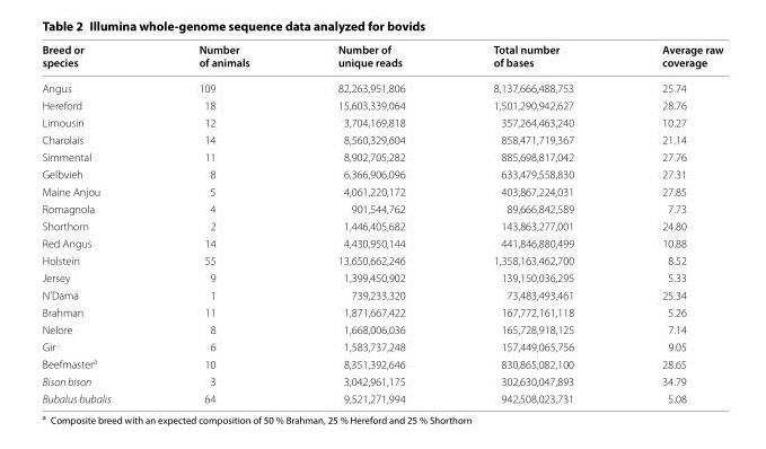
<table><thead><tr><td>Breed or species</td><td>Number of animals</td><td>Number of unique reads</td><td>Total number of bases</td><td>Average raw coverage</td></tr></thead><tbody><tr><td>Angus</td><td>109</td><td>82,263,951,806</td><td>8,137,666,488,753</td><td>25.74</td></tr><tr><td>Hereford</td><td>18</td><td>15,603,339,064</td><td>1,501,290,942,627</td><td>28.76</td></tr><tr><td>Limousin</td><td>12</td><td>3,704,169,818</td><td>357,264,463,240</td><td>10.27</td></tr><tr><td>Charolais</td><td>14</td><td>8,560,329,604</td><td>858,471,719,367</td><td>21.14</td></tr><tr><td>Simmental</td><td>11</td><td>8,902,705,282</td><td>885,698,817,042</td><td>27.76</td></tr><tr><td>Gelbvieh</td><td>8</td><td>6,366,906,096</td><td>633,479,558,830</td><td>27.31</td></tr><tr><td>Maine Anjou</td><td>5</td><td>4,061,220,172</td><td>403,867,224,031</td><td>27.85</td></tr><tr><td>Romagnola</td><td>4</td><td>901,544,762</td><td>89,666,842,589</td><td>7.73</td></tr><tr><td>Shorthorn</td><td>2</td><td>1,446,405,682</td><td>143,863,277,001</td><td>24.80</td></tr><tr><td>Red Angus</td><td>14</td><td>4,430,950,144</td><td>441,846,880,499</td><td>10.88</td></tr><tr><td>Holstein</td><td>55</td><td>13,650,662,246</td><td>1,358,163,462,700</td><td>8.52</td></tr><tr><td>Jersey</td><td>9</td><td>1,399,450,902</td><td>139,150,036,295</td><td>5.33</td></tr><tr><td>N’Dama</td><td>1</td><td>739,233,320</td><td>73,483,493,461</td><td>25.34</td></tr><tr><td>Brahman</td><td>11</td><td>1,871,667,422</td><td>167,772,161,118</td><td>5.26</td></tr><tr><td>Nelore</td><td>8</td><td>1,668,006,036</td><td>165,728,918,125</td><td>7.14</td></tr><tr><td>Gir</td><td>6</td><td>1,583,737,248</td><td>157,449,065,756</td><td>9.05</td></tr><tr><td>Beefmaster<sup>a</sup></td><td>10</td><td>8,351,392,646</td><td>830,865,082,100</td><td>28.65</td></tr><tr><td>Bison bison</td><td>3</td><td>3,042,961,175</td><td>302,630,047,893</td><td>34.79</td></tr><tr><td>Bubalus bubalis</td><td>64</td><td>9,521,271,994</td><td>942,508,023,731</td><td>5.08</td></tr></tbody></table>